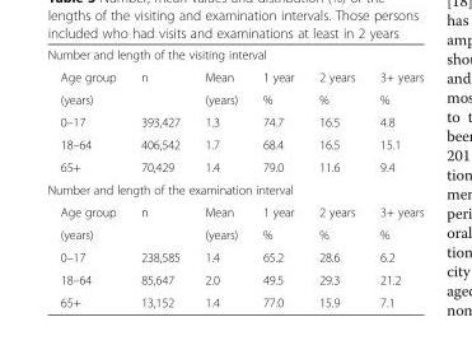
<table><tbody><tr><td colspan="6">Number and length of the visiting interval</td></tr><tr><td>Age group</td><td>n</td><td>Mean</td><td>1 year</td><td>2 years</td><td>3+ years</td></tr><tr><td>(years)</td><td></td><td>(years)</td><td>%</td><td>%</td><td>%</td></tr><tr><td>0–17</td><td>393,427</td><td>1.3</td><td>74.7</td><td>16.5</td><td>4.8</td></tr><tr><td>18–64</td><td>406,542</td><td>1.7</td><td>68.4</td><td>16.5</td><td>15.1</td></tr><tr><td>65+</td><td>70,429</td><td>1.4</td><td>79.0</td><td>11.6</td><td>9.4</td></tr><tr><td colspan="6">Number and length of the examination interval</td></tr><tr><td>Age group</td><td>n</td><td>Mean</td><td>1 year</td><td>2 years</td><td>3+ years</td></tr><tr><td>(years)</td><td></td><td>(years)</td><td>%</td><td>%</td><td>%</td></tr><tr><td>0–17</td><td>238,585</td><td>1.4</td><td>65.2</td><td>28.6</td><td>6.2</td></tr><tr><td>18–64</td><td>85,647</td><td>2.0</td><td>49.5</td><td>29.3</td><td>21.2</td></tr><tr><td>65+</td><td>13,152</td><td>1.4</td><td>77.0</td><td>15.9</td><td>7.1</td></tr></tbody></table>